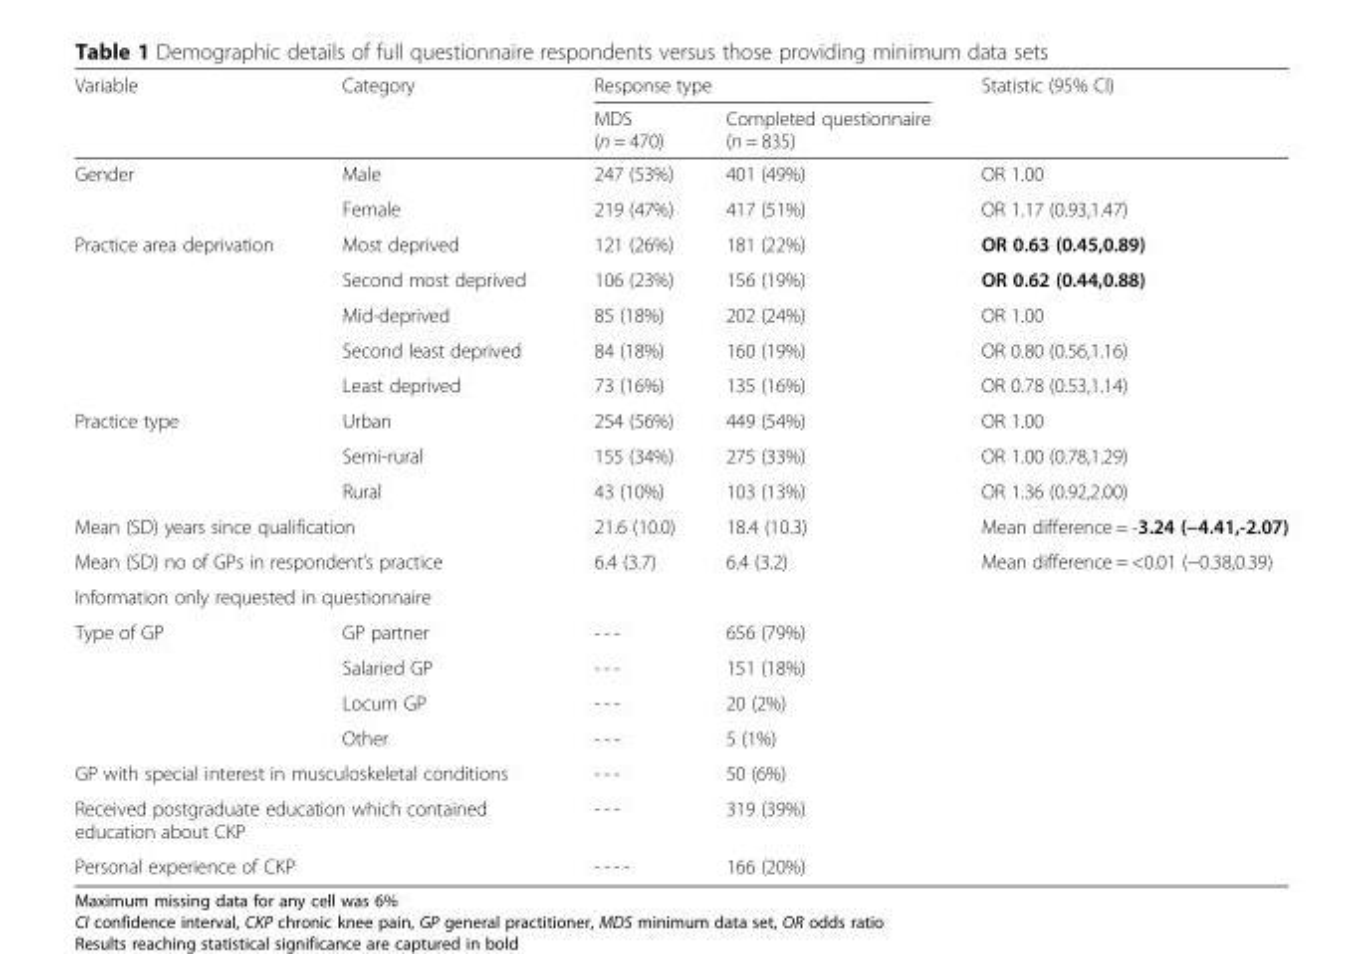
<table><thead><tr><td rowspan="2">Variable</td><td rowspan="2">Category</td><td colspan="2">Response type</td><td rowspan="2">Statistic (95% CI)</td></tr><tr><td>MDS (n = 470)</td><td>Completed questionnaire (n = 835)</td></tr></thead><tbody><tr><td rowspan="2">Gender</td><td>Male</td><td>247 (53%)</td><td>401 (49%)</td><td>OR 1.00</td></tr><tr><td>Female</td><td>219 (47%)</td><td>417 (51%)</td><td>OR 1.17 (0.93,1.47)</td></tr><tr><td rowspan="5">Practice area deprivation</td><td>Most deprived</td><td>121 (26%)</td><td>181 (22%)</td><td>OR 0.63 (0.45,0.89)</td></tr><tr><td>Second most deprived</td><td>106 (23%)</td><td>156 (19%)</td><td>OR 0.62 (0.44,0.88)</td></tr><tr><td>Mid-deprived</td><td>85 (18%)</td><td>202 (24%)</td><td>OR 1.00</td></tr><tr><td>Second least deprived</td><td>84 (18%)</td><td>160 (19%)</td><td>OR 0.80 (0.56,1.16)</td></tr><tr><td>Least deprived</td><td>73 (16%)</td><td>135 (16%)</td><td>OR 0.78 (0.53,1.14)</td></tr><tr><td rowspan="3">Practice type</td><td>Urban</td><td>254 (56%)</td><td>449 (54%)</td><td>OR 1.00</td></tr><tr><td>Semi-rural</td><td>155 (34%)</td><td>275 (33%)</td><td>OR 1.00 (0.78,1.29)</td></tr><tr><td>Rural</td><td>43 (10%)</td><td>103 (13%)</td><td>OR 1.36 (0.92,2.00)</td></tr><tr><td colspan="2">Mean (SD) years since qualification</td><td>21.6 (10.0)</td><td>18.4 (10.3)</td><td>Mean difference = -3.24 (−4.41,-2.07)</td></tr><tr><td colspan="2">Mean (SD) no of GPs in respondent’s practice</td><td>6.4 (3.7)</td><td>6.4 (3.2)</td><td>Mean difference = &lt;0.01 (−0.38,0.39)</td></tr><tr><td colspan="5">Information only requested in questionnaire</td></tr><tr><td rowspan="4">Type of GP</td><td>GP partner</td><td>- - -</td><td>656 (79%)</td><td rowspan="4"></td></tr><tr><td>Salaried GP</td><td>- - -</td><td>151 (18%)</td></tr><tr><td>Locum GP</td><td>- - -</td><td>20 (2%)</td></tr><tr><td>Other</td><td>- - -</td><td>5 (1%)</td></tr><tr><td colspan="2">GP with special interest in musculoskeletal conditions</td><td>- - -</td><td>50 (6%)</td><td></td></tr><tr><td colspan="2">Received postgraduate education which contained education about CKP</td><td>- - -</td><td>319 (39%)</td><td></td></tr><tr><td colspan="2">Personal experience of CKP</td><td>- - - -</td><td>166 (20%)</td><td></td></tr></tbody></table>